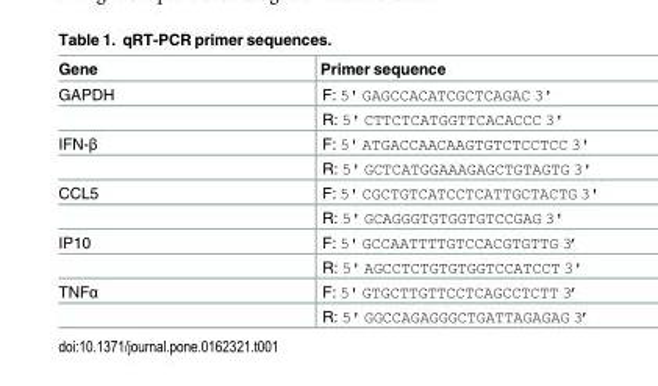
<table><thead><tr><td>Gene</td><td>Primer sequence</td></tr></thead><tbody><tr><td rowspan="2">GAPDH</td><td>F: 5&#x27; GAGCCACATCGCTCAGAC 3&#x27;</td></tr><tr><td>R: 5&#x27; CTTCTCATGGTTCACACCC 3&#x27;</td></tr><tr><td rowspan="2">IFN-β</td><td>F: 5&#x27; ATGACCAACAAGTGTCTCCTCC 3&#x27;</td></tr><tr><td>R: 5&#x27; GCTCATGGAAAGAGCTGTAGTG 3&#x27;</td></tr><tr><td rowspan="2">CCL5</td><td>F: 5&#x27; CGCTGTCATCCTCATTGCTACTG 3&#x27;</td></tr><tr><td>R: 5&#x27; GCAGGGTGTGGTGTCCGAG 3&#x27;</td></tr><tr><td rowspan="2">IP10</td><td>F: 5&#x27; GCCAATTTTGTCCACGTGTTG 3’</td></tr><tr><td>R: 5&#x27; AGCCTCTGTGTGGTCCATCCT 3&#x27;</td></tr><tr><td rowspan="2">TNFα</td><td>F: 5&#x27; GTGCTTGTTCCTCAGCCTCTT 3’</td></tr><tr><td>R: 5&#x27; GGCCAGAGGGCTGATTAGAGAG 3’</td></tr></tbody></table>